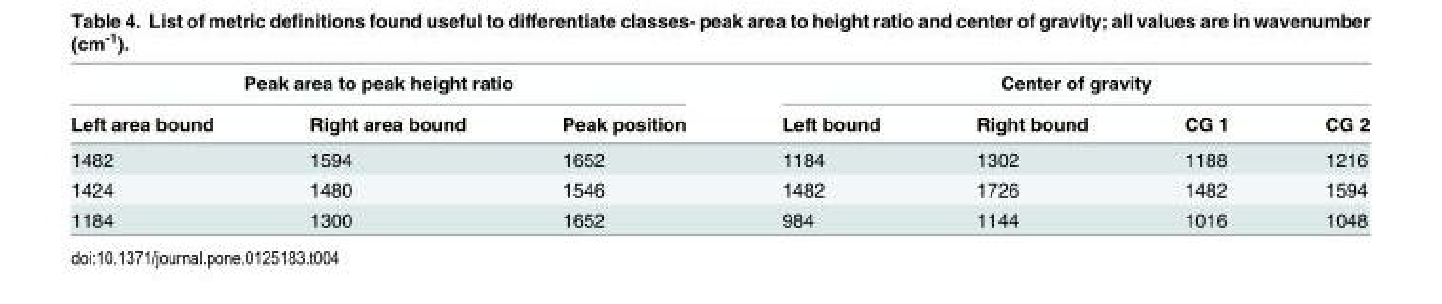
<table><thead><tr><td colspan="3">Peak area to peak height ratio</td><td colspan="4">Center of gravity</td></tr><tr><td>Left area bound</td><td>Right area bound</td><td>Peak position</td><td>Left bound</td><td>Right bound</td><td>CG 1</td><td>CG 2</td></tr></thead><tbody><tr><td>1482</td><td>1594</td><td>1652</td><td>1184</td><td>1302</td><td>1188</td><td>1216</td></tr><tr><td>1424</td><td>1480</td><td>1546</td><td>1482</td><td>1726</td><td>1482</td><td>1594</td></tr><tr><td>1184</td><td>1300</td><td>1652</td><td>984</td><td>1144</td><td>1016</td><td>1048</td></tr></tbody></table>